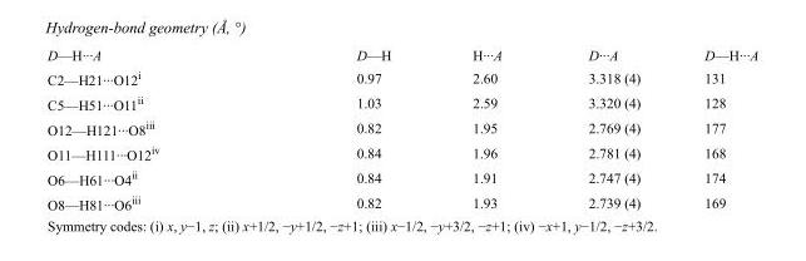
<table><tbody><tr><td>D—H···A</td><td>D—H</td><td>H···A</td><td>D···A</td><td>D—H···A</td></tr><tr><td>C2—H21···O12<sup>i</sup></td><td>0.97</td><td>2.60</td><td>3.318 (4)</td><td>131</td></tr><tr><td>C5—H51···O11<sup>ii</sup></td><td>1.03</td><td>2.59</td><td>3.320 (4)</td><td>128</td></tr><tr><td>O12—H121···O8<sup>iii</sup></td><td>0.82</td><td>1.95</td><td>2.769 (4)</td><td>177</td></tr><tr><td>O11—H111···O12<sup>iv</sup></td><td>0.84</td><td>1.96</td><td>2.781 (4)</td><td>168</td></tr><tr><td>O6—H61···O4<sup>ii</sup></td><td>0.84</td><td>1.91</td><td>2.747 (4)</td><td>174</td></tr><tr><td>O8—H81···O6<sup>iii</sup></td><td>0.82</td><td>1.93</td><td>2.739 (4)</td><td>169</td></tr></tbody></table>